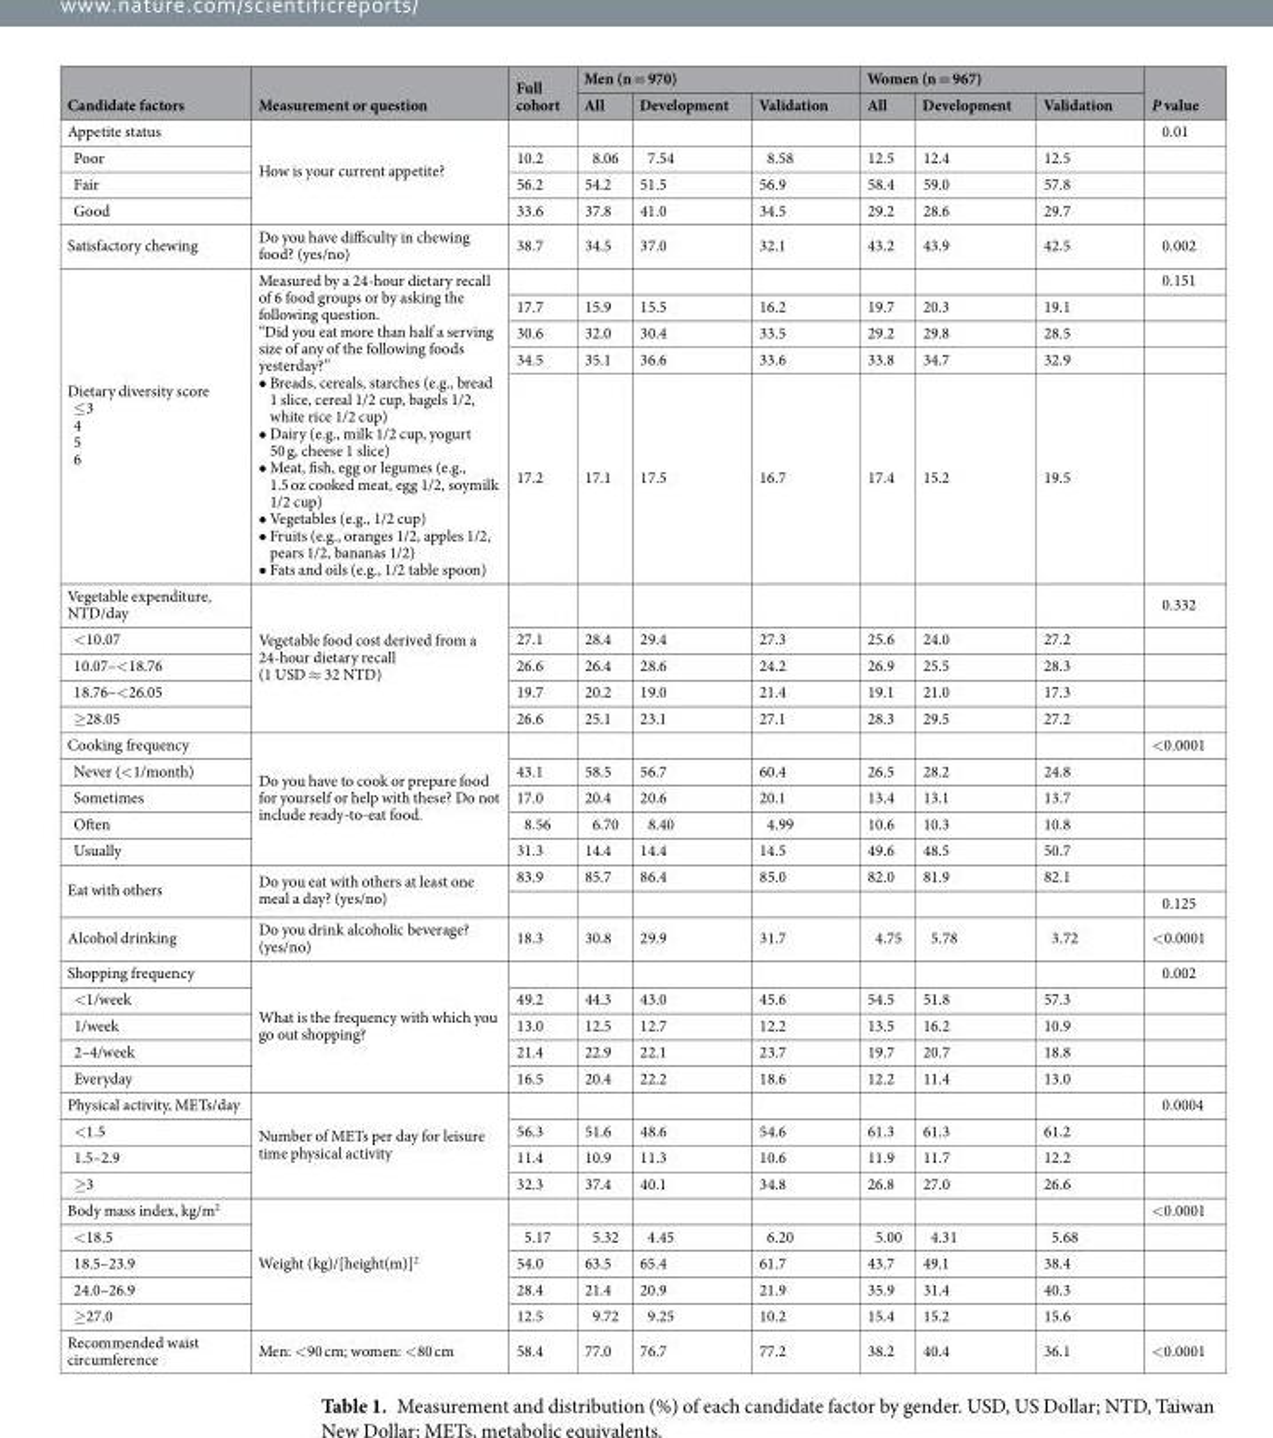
<table><thead><tr><td rowspan="2">Candidate factors</td><td rowspan="2">Measurement or question</td><td rowspan="2">Full cohort</td><td colspan="3">Men (n = 970)</td><td colspan="3">Women (n = 967)</td><td rowspan="2">P value</td></tr><tr><td>All</td><td>Development</td><td>Validation</td><td>All</td><td>Development</td><td>Validation</td></tr></thead><tbody><tr><td>Appetite status</td><td rowspan="4">How is your current appetite?</td><td></td><td></td><td></td><td></td><td></td><td></td><td></td><td>0.01</td></tr><tr><td>Poor</td><td>10.2</td><td>8.06</td><td>7.54</td><td>8.58</td><td>12.5</td><td>12.4</td><td>12.5</td><td></td></tr><tr><td>Fair</td><td>56.2</td><td>54.2</td><td>51.5</td><td>56.9</td><td>58.4</td><td>59.0</td><td>57.8</td><td></td></tr><tr><td>Good</td><td>33.6</td><td>37.8</td><td>41.0</td><td>34.5</td><td>29.2</td><td>28.6</td><td>29.7</td><td></td></tr><tr><td>Satisfactory chewing</td><td>Do you have difficulty in chewing food? (yes/no)</td><td>38.7</td><td>34.5</td><td>37.0</td><td>32.1</td><td>43.2</td><td>43.9</td><td>42.5</td><td>0.002</td></tr><tr><td rowspan="5">Dietary diversity score ≤3 4 5 6</td><td rowspan="5">Measured by a 24-hour dietary recall of 6 food groups or by asking the following question. “Did you eat more than half a serving size of any of the following foods yesterday?” • Breads, cereals, starches (e.g., bread 1 slice, cereal 1/2 cup, bagels 1/2, white rice 1/2 cup) • Dairy (e.g., milk 1/2 cup, yogurt 50 g, cheese 1 slice) • Meat, fish, egg or legumes (e.g., 1.5 oz cooked meat, egg 1/2, soymilk 1/2 cup) • Vegetables (e.g., 1/2 cup) • Fruits (e.g., oranges 1/2, apples 1/2, pears 1/2, bananas 1/2) • Fats and oils (e.g., 1/2 table spoon)</td><td></td><td></td><td></td><td></td><td></td><td></td><td></td><td>0.151</td></tr><tr><td>17.7</td><td>15.9</td><td>15.5</td><td>16.2</td><td>19.7</td><td>20.3</td><td>19.1</td><td></td></tr><tr><td>30.6</td><td>32.0</td><td>30.4</td><td>33.5</td><td>29.2</td><td>29.8</td><td>28.5</td><td></td></tr><tr><td>34.5</td><td>35.1</td><td>36.6</td><td>33.6</td><td>33.8</td><td>34.7</td><td>32.9</td><td></td></tr><tr><td>17.2</td><td>17.1</td><td>17.5</td><td>16.7</td><td>17.4</td><td>15.2</td><td>19.5</td><td></td></tr><tr><td>Vegetable expenditure, NTD/day</td><td rowspan="5">Vegetable food cost derived from a 24-hour dietary recall (1 USD ≈ 32 NTD)</td><td></td><td></td><td></td><td></td><td></td><td></td><td></td><td>0.332</td></tr><tr><td>&lt;10.07</td><td>27.1</td><td>28.4</td><td>29.4</td><td>27.3</td><td>25.6</td><td>24.0</td><td>27.2</td><td></td></tr><tr><td>10.07–&lt;18.76</td><td>26.6</td><td>26.4</td><td>28.6</td><td>24.2</td><td>26.9</td><td>25.5</td><td>28.3</td><td></td></tr><tr><td>18.76–&lt;26.05</td><td>19.7</td><td>20.2</td><td>19.0</td><td>21.4</td><td>19.1</td><td>21.0</td><td>17.3</td><td></td></tr><tr><td>≥28.05</td><td>26.6</td><td>25.1</td><td>23.1</td><td>27.1</td><td>28.3</td><td>29.5</td><td>27.2</td><td></td></tr><tr><td>Cooking frequency</td><td rowspan="5">Do you have to cook or prepare food for yourself or help with these? Do not include ready-to-eat food.</td><td></td><td></td><td></td><td></td><td></td><td></td><td></td><td>&lt;0.0001</td></tr><tr><td>Never (&lt;1/month)</td><td>43.1</td><td>58.5</td><td>56.7</td><td>60.4</td><td>26.5</td><td>28.2</td><td>24.8</td><td></td></tr><tr><td>Sometimes</td><td>17.0</td><td>20.4</td><td>20.6</td><td>20.1</td><td>13.4</td><td>13.1</td><td>13.7</td><td></td></tr><tr><td>Often</td><td>8.56</td><td>6.70</td><td>8.40</td><td>4.99</td><td>10.6</td><td>10.3</td><td>10.8</td><td></td></tr><tr><td>Usually</td><td>31.3</td><td>14.4</td><td>14.4</td><td>14.5</td><td>49.6</td><td>48.5</td><td>50.7</td><td></td></tr><tr><td rowspan="2">Eat with others</td><td rowspan="2">Do you eat with others at least one meal a day? (yes/no)</td><td>83.9</td><td>85.7</td><td>86.4</td><td>85.0</td><td>82.0</td><td>81.9</td><td>82.1</td><td></td></tr><tr><td></td><td></td><td></td><td></td><td></td><td></td><td></td><td>0.125</td></tr><tr><td>Alcohol drinking</td><td>Do you drink alcoholic beverage? (yes/no)</td><td>18.3</td><td>30.8</td><td>29.9</td><td>31.7</td><td>4.75</td><td>5.78</td><td>3.72</td><td>&lt;0.0001</td></tr><tr><td>Shopping frequency</td><td rowspan="5">What is the frequency with which you go out shopping?</td><td></td><td></td><td></td><td></td><td></td><td></td><td></td><td>0.002</td></tr><tr><td>&lt;1/week</td><td>49.2</td><td>44.3</td><td>43.0</td><td>45.6</td><td>54.5</td><td>51.8</td><td>57.3</td><td></td></tr><tr><td>1/week</td><td>13.0</td><td>12.5</td><td>12.7</td><td>12.2</td><td>13.5</td><td>16.2</td><td>10.9</td><td></td></tr><tr><td>2–4/week</td><td>21.4</td><td>22.9</td><td>22.1</td><td>23.7</td><td>19.7</td><td>20.7</td><td>18.8</td><td></td></tr><tr><td>Everyday</td><td>16.5</td><td>20.4</td><td>22.2</td><td>18.6</td><td>12.2</td><td>11.4</td><td>13.0</td><td></td></tr><tr><td>Physical activity, METs/day</td><td rowspan="4">Number of METs per day for leisure time physical activity</td><td></td><td></td><td></td><td></td><td></td><td></td><td></td><td>0.0004</td></tr><tr><td>&lt;1.5</td><td>56.3</td><td>51.6</td><td>48.6</td><td>54.6</td><td>61.3</td><td>61.3</td><td>61.2</td><td></td></tr><tr><td>1.5–2.9</td><td>11.4</td><td>10.9</td><td>11.3</td><td>10.6</td><td>11.9</td><td>11.7</td><td>12.2</td><td></td></tr><tr><td>≥3</td><td>32.3</td><td>37.4</td><td>40.1</td><td>34.8</td><td>26.8</td><td>27.0</td><td>26.6</td><td></td></tr><tr><td>Body mass index, kg/m<sup>2</sup></td><td rowspan="5">Weight (kg)/[height(m)]<sup>2</sup></td><td></td><td></td><td></td><td></td><td></td><td></td><td></td><td>&lt;0.0001</td></tr><tr><td>&lt;18.5</td><td>5.17</td><td>5.32</td><td>4.45</td><td>6.20</td><td>5.00</td><td>4.31</td><td>5.68</td><td></td></tr><tr><td>18.5–23.9</td><td>54.0</td><td>63.5</td><td>65.4</td><td>61.7</td><td>43.7</td><td>49.1</td><td>38.4</td><td></td></tr><tr><td>24.0–26.9</td><td>28.4</td><td>21.4</td><td>20.9</td><td>21.9</td><td>35.9</td><td>31.4</td><td>40.3</td><td></td></tr><tr><td>≥27.0</td><td>12.5</td><td>9.72</td><td>9.25</td><td>10.2</td><td>15.4</td><td>15.2</td><td>15.6</td><td></td></tr><tr><td>Recommended waist circumference</td><td>Men: &lt;90 cm; women: &lt;80 cm</td><td>58.4</td><td>77.0</td><td>76.7</td><td>77.2</td><td>38.2</td><td>40.4</td><td>36.1</td><td>&lt;0.0001</td></tr></tbody></table>